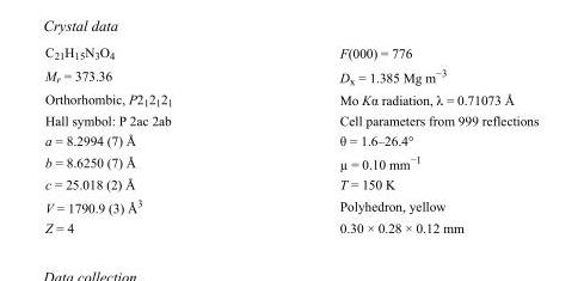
<table><tbody><tr><td>C<sub>21</sub>H<sub>15</sub>N<sub>3</sub>O<sub>4</sub></td><td>F(000) = 776</td></tr><tr><td>M<sub>r</sub> = 373.36</td><td>D<sub>x</sub> = 1.385 Mg m<sup>−3</sup></td></tr><tr><td>Orthorhombic, P2<sub>1</sub>2<sub>1</sub>2<sub>1</sub></td><td>Mo Kα radiation, λ = 0.71073 Å</td></tr><tr><td>Hall symbol: P 2ac 2ab</td><td>Cell parameters from 999 reflections</td></tr><tr><td>a = 8.2994 (7) Å</td><td>θ = 1.6–26.4°</td></tr><tr><td>b = 8.6250 (7) Å</td><td>µ = 0.10 mm<sup>−1</sup></td></tr><tr><td>c = 25.018 (2) Å</td><td>T = 150 K</td></tr><tr><td>V = 1790.9 (3) Å<sup>3</sup></td><td>Polyhedron, yellow</td></tr><tr><td>Z = 4</td><td>0.30 × 0.28 × 0.12 mm</td></tr></tbody></table>